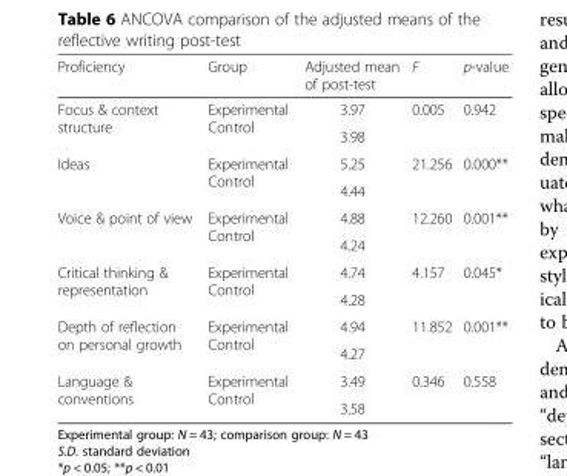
<table><thead><tr><td>Proficiency</td><td>Group</td><td>Adjusted mean of post-test</td><td>F</td><td>p-value</td></tr></thead><tbody><tr><td rowspan="2">Focus &amp; context structure</td><td rowspan="2">Experimental Control</td><td>3.97</td><td rowspan="2">0.005</td><td rowspan="2">0.942</td></tr><tr><td>3.98</td></tr><tr><td rowspan="2">Ideas</td><td rowspan="2">Experimental Control</td><td>5.25</td><td rowspan="2">21.256</td><td rowspan="2">0.000**</td></tr><tr><td>4.44</td></tr><tr><td rowspan="2">Voice &amp; point of view</td><td rowspan="2">Experimental Control</td><td>4.88</td><td rowspan="2">12.260</td><td rowspan="2">0.001**</td></tr><tr><td>4.24</td></tr><tr><td rowspan="2">Critical thinking &amp; representation</td><td rowspan="2">Experimental Control</td><td>4.74</td><td rowspan="2">4.157</td><td rowspan="2">0.045*</td></tr><tr><td>4.28</td></tr><tr><td rowspan="2">Depth of reflection on personal growth</td><td rowspan="2">Experimental Control</td><td>4.94</td><td rowspan="2">11.852</td><td rowspan="2">0.001**</td></tr><tr><td>4.27</td></tr><tr><td rowspan="2">Language &amp; conventions</td><td rowspan="2">Experimental Control</td><td>3.49</td><td rowspan="2">0.346</td><td rowspan="2">0.558</td></tr><tr><td>3.58</td></tr></tbody></table>